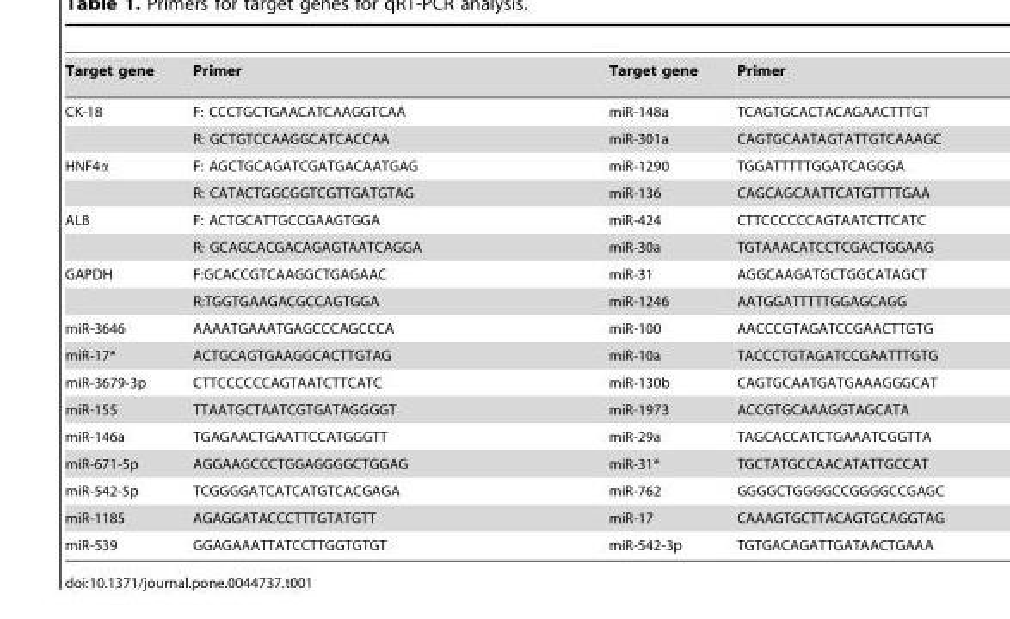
<table><tbody><tr><td>Target gene</td><td>Primer</td><td>Target gene</td><td>Primer</td></tr><tr><td rowspan="2">CK-18</td><td>F: CCCTGCTGAACATCAAGGTCAA</td><td>miR-148a</td><td>TCAGTGCACTACAGAACTTTGT</td></tr><tr><td>R: GCTGTCCAAGGCATCACCAA</td><td>miR-301a</td><td>CAGTGCAATAGTATTGTCAAAGC</td></tr><tr><td rowspan="2">HNF4α</td><td>F: AGCTGCAGATCGATGACAATGAG</td><td>miR-1290</td><td>TGGATTTTTGGATCAGGGA</td></tr><tr><td>R: CATACTGGCGGTCGTTGATGTAG</td><td>miR-136</td><td>CAGCAGCAATTCATGTTTTGAA</td></tr><tr><td rowspan="2">ALB</td><td>F: ACTGCATTGCCGAAGTGGA</td><td>miR-424</td><td>CTTCCCCCCAGTAATCTTCATC</td></tr><tr><td>R: GCAGCACGACAGAGTAATCAGGA</td><td>miR-30a</td><td>TGTAAACATCCTCGACTGGAAG</td></tr><tr><td rowspan="2">GAPDH</td><td>F:GCACCGTCAAGGCTGAGAAC</td><td>miR-31</td><td>AGGCAAGATGCTGGCATAGCT</td></tr><tr><td>R:TGGTGAAGACGCCAGTGGA</td><td>miR-1246</td><td>AATGGATTTTTGGAGCAGG</td></tr><tr><td>miR-3646</td><td>AAAATGAAATGAGCCCAGCCCA</td><td>miR-100</td><td>AACCCGTAGATCCGAACTTGTG</td></tr><tr><td>miR-17*</td><td>ACTGCAGTGAAGGCACTTGTAG</td><td>miR-10a</td><td>TACCCTGTAGATCCGAATTTGTG</td></tr><tr><td>miR-3679-3p</td><td>CTTCCCCCCAGTAATCTTCATC</td><td>miR-130b</td><td>CAGTGCAATGATGAAAGGGCAT</td></tr><tr><td>miR-155</td><td>TTAATGCTAATCGTGATAGGGGT</td><td>miR-1973</td><td>ACCGTGCAAAGGTAGCATA</td></tr><tr><td>miR-146a</td><td>TGAGAACTGAATTCCATGGGTT</td><td>miR-29a</td><td>TAGCACCATCTGAAATCGGTTA</td></tr><tr><td>miR-671-5p</td><td>AGGAAGCCCTGGAGGGGCTGGAG</td><td>miR-31*</td><td>TGCTATGCCAACATATTGCCAT</td></tr><tr><td>miR-542-5p</td><td>TCGGGGATCATCATGTCACGAGA</td><td>miR-762</td><td>GGGGCTGGGGCCGGGGCCGAGC</td></tr><tr><td>miR-1185</td><td>AGAGGATACCCTTTGTATGTT</td><td>miR-17</td><td>CAAAGTGCTTACAGTGCAGGTAG</td></tr><tr><td>miR-539</td><td>GGAGAAATTATCCTTGGTGTGT</td><td>miR-542-3p</td><td>TGTGACAGATTGATAACTGAAA</td></tr></tbody></table>